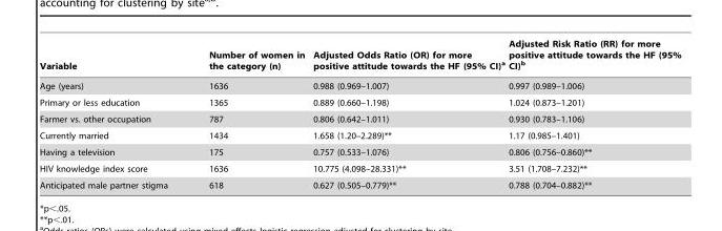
<table><thead><tr><td>Variable</td><td>Number of women in the category (n)</td><td>Adjusted Odds Ratio (OR) for more positive attitude towards the HF (95% CI)<sup>a</sup></td><td>Adjusted Risk Ratio (RR) for more positive attitude towards the HF (95% CI)<sup>b</sup></td></tr></thead><tbody><tr><td>Age (years)</td><td>1636</td><td>0.988 (0.969–1.007)</td><td>0.997 (0.989–1.006)</td></tr><tr><td>Primary or less education</td><td>1365</td><td>0.889 (0.660–1.198)</td><td>1.024 (0.873–1.201)</td></tr><tr><td>Farmer vs. other occupation</td><td>787</td><td>0.806 (0.642–1.011)</td><td>0.930 (0.783–1.106)</td></tr><tr><td>Currently married</td><td>1434</td><td>1.658 (1.20–2.289)**</td><td>1.17 (0.985–1.401)</td></tr><tr><td>Having a television</td><td>175</td><td>0.757 (0.533–1.076)</td><td>0.806 (0.756–0.860)**</td></tr><tr><td>HIV knowledge index score</td><td>1636</td><td>10.775 (4.098–28.331)**</td><td>3.51 (1.708–7.232)**</td></tr><tr><td>Anticipated male partner stigma</td><td>618</td><td>0.627 (0.505–0.779)**</td><td>0.788 (0.704–0.882)**</td></tr></tbody></table>